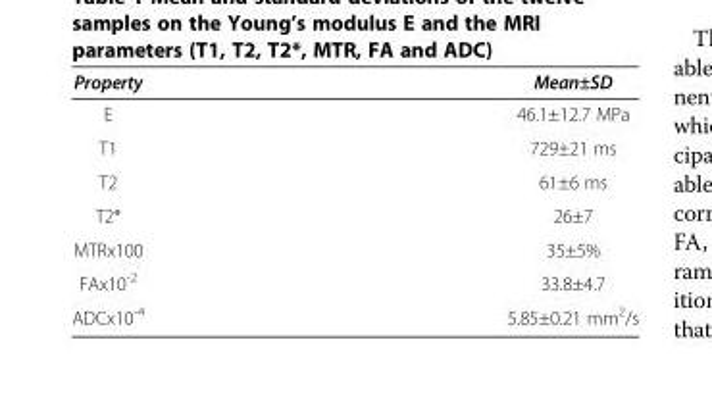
<table><thead><tr><td>Property</td><td>Mean±SD</td></tr></thead><tbody><tr><td>E</td><td>46.1±12.7 MPa</td></tr><tr><td>T1</td><td>729±21 ms</td></tr><tr><td>T2</td><td>61±6 ms</td></tr><tr><td>T2*</td><td>26±7</td></tr><tr><td>MTRx100</td><td>35±5%</td></tr><tr><td>FAx10<sup>-2</sup></td><td>33.8±4.7</td></tr><tr><td>ADCx10<sup>-4</sup></td><td>5.85±0.21 mm<sup>2</sup>/s</td></tr></tbody></table>